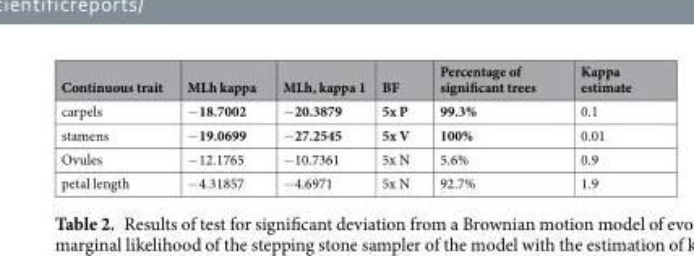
<table><thead><tr><td>Continuous trait</td><td>MLh kappa</td><td>MLh, kappa 1</td><td>BF</td><td>Percentage of significant trees</td><td>Kappa estimate</td></tr></thead><tbody><tr><td>carpels</td><td>−18.7002</td><td>−20.3879</td><td>5x P</td><td>99.3%</td><td>0.1</td></tr><tr><td>stamens</td><td>−19.0699</td><td>−27.2545</td><td>5x V</td><td>100%</td><td>0.01</td></tr><tr><td>Ovules</td><td>−12.1765</td><td>−10.7361</td><td>5x N</td><td>5.6%</td><td>0.9</td></tr><tr><td>petal length</td><td>−4.31857</td><td>−4.6971</td><td>5x N</td><td>92.7%</td><td>1.9</td></tr></tbody></table>